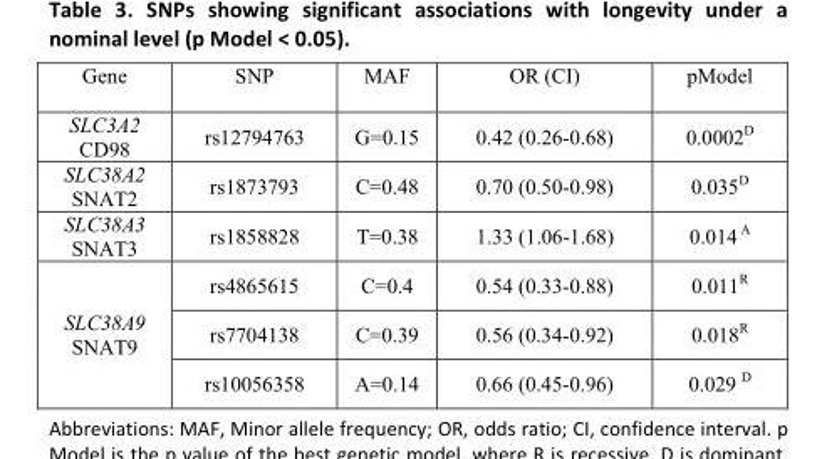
<table><tbody><tr><td>Gene</td><td>SNP</td><td>MAF</td><td>OR (CI)</td><td>pModel</td></tr><tr><td>SLC3A2 CD98</td><td>rs12794763</td><td>G=0.15</td><td>0.42 (0.26-0.68)</td><td>0.0002<sup>D</sup></td></tr><tr><td>SLC38A2 SNAT2</td><td>rs1873793</td><td>C=0.48</td><td>0.70 (0.50-0.98)</td><td>0.035<sup>D</sup></td></tr><tr><td>SLC38A3 SNAT3</td><td>rs1858828</td><td>T=0.38</td><td>1.33 (1.06-1.68)</td><td>0.014 <sup>A</sup></td></tr><tr><td rowspan="3">SLC38A9 SNAT9</td><td>rs4865615</td><td>C=0.4</td><td>0.54 (0.33-0.88)</td><td>0.011<sup>R</sup></td></tr><tr><td>rs7704138</td><td>C=0.39</td><td>0.56 (0.34-0.92)</td><td>0.018<sup>R</sup></td></tr><tr><td>rs10056358</td><td>A=0.14</td><td>0.66 (0.45-0.96)</td><td>0.029 <sup>D</sup></td></tr></tbody></table>